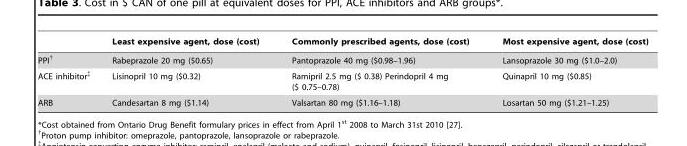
<table><thead><tr><td></td><td>Least expensive agent, dose (cost)</td><td>Commonly prescribed agents, dose (cost)</td><td>Most expensive agent, dose (cost)</td></tr></thead><tbody><tr><td>PPI†</td><td>Rabeprazole 20 mg ($0.65)</td><td>Pantoprazole 40 mg ($0.98–1.96)</td><td>Lansoprazole 30 mg ($1.0–2.0)</td></tr><tr><td>ACE inhibitor‡</td><td>Lisinopril 10 mg ($0.32)</td><td>Ramipril 2.5 mg ($ 0.38) Perindopril 4 mg ($ 0.75–0.78)</td><td>Quinapril 10 mg ($0.85)</td></tr><tr><td>ARB</td><td>Candesartan 8 mg ($1.14)</td><td>Valsartan 80 mg ($1.16–1.18)</td><td>Losartan 50 mg ($1.21–1.25)</td></tr></tbody></table>